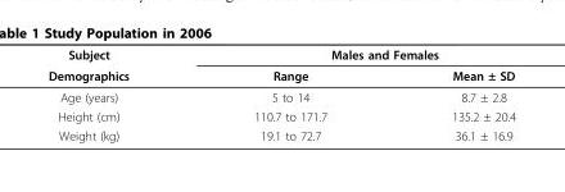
<table><thead><tr><td rowspan="2">Subject Demographics</td><td colspan="2">Males and Females</td></tr><tr><td>Range</td><td>Mean ± SD</td></tr></thead><tbody><tr><td>Age (years)</td><td>5 to 14</td><td>8.7 ± 2.8</td></tr><tr><td>Height (cm)</td><td>110.7 to 171.7</td><td>135.2 ± 20.4</td></tr><tr><td>Weight (kg)</td><td>19.1 to 72.7</td><td>36.1 ± 16.9</td></tr></tbody></table>